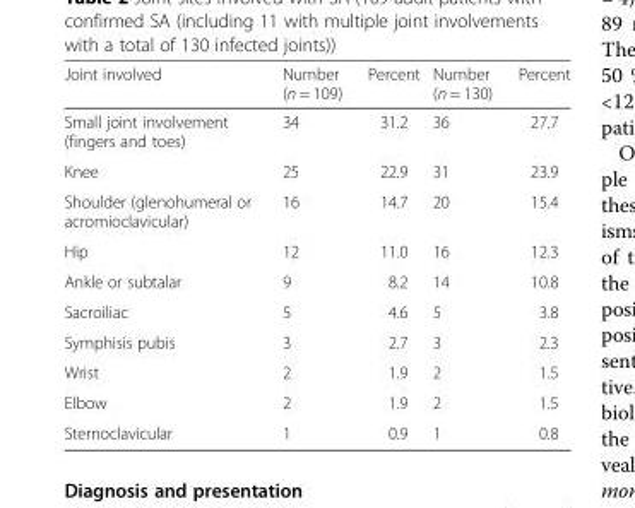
<table><thead><tr><td>Joint involved</td><td>Number (n = 109)</td><td>Percent</td><td>Number (n = 130)</td><td>Percent</td></tr></thead><tbody><tr><td>Small joint involvement (fingers and toes)</td><td>34</td><td>31.2</td><td>36</td><td>27.7</td></tr><tr><td>Knee</td><td>25</td><td>22.9</td><td>31</td><td>23.9</td></tr><tr><td>Shoulder (glenohumeral or acromioclavicular)</td><td>16</td><td>14.7</td><td>20</td><td>15.4</td></tr><tr><td>Hip</td><td>12</td><td>11.0</td><td>16</td><td>12.3</td></tr><tr><td>Ankle or subtalar</td><td>9</td><td>8.2</td><td>14</td><td>10.8</td></tr><tr><td>Sacroiliac</td><td>5</td><td>4.6</td><td>5</td><td>3.8</td></tr><tr><td>Symphisis pubis</td><td>3</td><td>2.7</td><td>3</td><td>2.3</td></tr><tr><td>Wrist</td><td>2</td><td>1.9</td><td>2</td><td>1.5</td></tr><tr><td>Elbow</td><td>2</td><td>1.9</td><td>2</td><td>1.5</td></tr><tr><td>Sternoclavicular</td><td>1</td><td>0.9</td><td>1</td><td>0.8</td></tr></tbody></table>